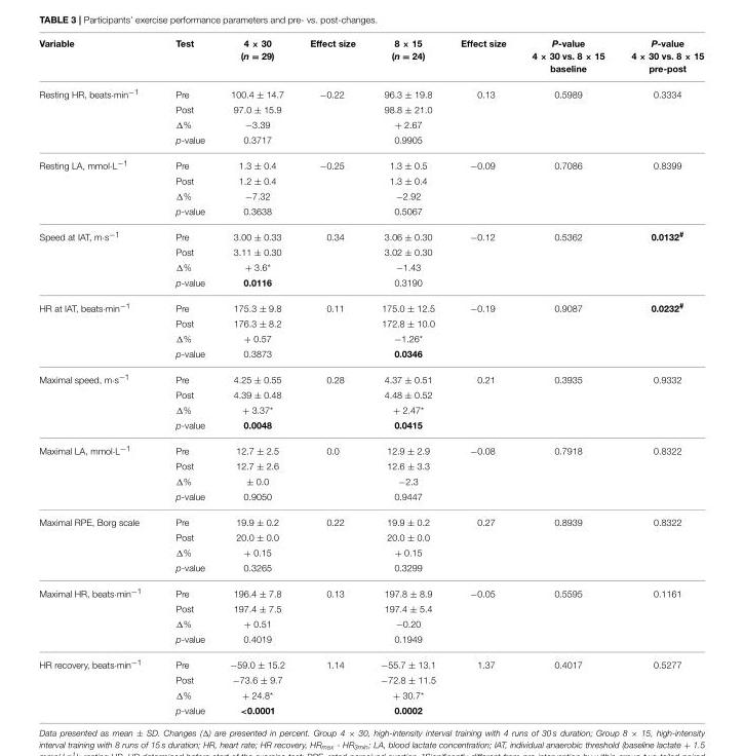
<table><thead><tr><td>Variable</td><td>Test</td><td>4 × 30 (n = 29)</td><td>Effect size</td><td>8 × 15 (n = 24)</td><td>Effect size</td><td>P-value 4 × 30 vs. 8 × 15 baseline</td><td>P-value 4 × 30 vs. 8 × 15 pre-post</td></tr></thead><tbody><tr><td rowspan="4">Resting HR, beats·min<sup>−1</sup></td><td>Pre</td><td>100.4 ± 14.7</td><td>−0.22</td><td>96.3 ± 19.8</td><td>0.13</td><td>0.5989</td><td>0.3334</td></tr><tr><td>Post</td><td>97.0 ± 15.9</td><td></td><td>98.8 ± 21.0</td><td></td><td></td><td></td></tr><tr><td>Δ%</td><td>−3.39</td><td></td><td>+ 2.67</td><td></td><td></td><td></td></tr><tr><td>p-value</td><td>0.3717</td><td></td><td>0.9905</td><td></td><td></td><td></td></tr><tr><td rowspan="4">Resting LA, mmol·L<sup>−1</sup></td><td>Pre</td><td>1.3 ± 0.4</td><td>−0.25</td><td>1.3 ± 0.5</td><td>−0.09</td><td>0.7086</td><td>0.8399</td></tr><tr><td>Post</td><td>1.2 ± 0.4</td><td></td><td>1.3 ± 0.4</td><td></td><td></td><td></td></tr><tr><td>Δ%</td><td>−7.32</td><td></td><td>−2.92</td><td></td><td></td><td></td></tr><tr><td>p-value</td><td>0.3638</td><td></td><td>0.5067</td><td></td><td></td><td></td></tr><tr><td rowspan="4">Speed at IAT, m·s<sup>−1</sup></td><td>Pre</td><td>3.00 ± 0.33</td><td>0.34</td><td>3.06 ± 0.30</td><td>−0.12</td><td>0.5362</td><td>0.0132<sup>#</sup></td></tr><tr><td>Post</td><td>3.11 ± 0.30</td><td></td><td>3.02 ± 0.30</td><td></td><td></td><td></td></tr><tr><td>Δ%</td><td>+ 3.6*</td><td></td><td>−1.43</td><td></td><td></td><td></td></tr><tr><td>p-value</td><td>0.0116</td><td></td><td>0.3190</td><td></td><td></td><td></td></tr><tr><td rowspan="4">HR at IAT, beats·min<sup>−1</sup></td><td>Pre</td><td>175.3 ± 9.8</td><td>0.11</td><td>175.0 ± 12.5</td><td>−0.19</td><td>0.9087</td><td>0.0232<sup>#</sup></td></tr><tr><td>Post</td><td>176.3 ± 8.2</td><td></td><td>172.8 ± 10.0</td><td></td><td></td><td></td></tr><tr><td>Δ%</td><td>+ 0.57</td><td></td><td>−1.26*</td><td></td><td></td><td></td></tr><tr><td>p-value</td><td>0.3873</td><td></td><td>0.0346</td><td></td><td></td><td></td></tr><tr><td rowspan="4">Maximal speed, m·s<sup>−1</sup></td><td>Pre</td><td>4.25 ± 0.55</td><td>0.28</td><td>4.37 ± 0.51</td><td>0.21</td><td>0.3935</td><td>0.9332</td></tr><tr><td>Post</td><td>4.39 ± 0.48</td><td></td><td>4.48 ± 0.52</td><td></td><td></td><td></td></tr><tr><td>Δ%</td><td>+ 3.37*</td><td></td><td>+ 2.47*</td><td></td><td></td><td></td></tr><tr><td>p-value</td><td>0.0048</td><td></td><td>0.0415</td><td></td><td></td><td></td></tr><tr><td rowspan="4">Maximal LA, mmol·L<sup>−1</sup></td><td>Pre</td><td>12.7 ± 2.5</td><td>0.0</td><td>12.9 ± 2.9</td><td>−0.08</td><td>0.7918</td><td>0.8322</td></tr><tr><td>Post</td><td>12.7 ± 2.6</td><td></td><td>12.6 ± 3.3</td><td></td><td></td><td></td></tr><tr><td>Δ%</td><td>± 0.0</td><td></td><td>−2.3</td><td></td><td></td><td></td></tr><tr><td>p-value</td><td>0.9050</td><td></td><td>0.9447</td><td></td><td></td><td></td></tr><tr><td rowspan="4">Maximal RPE, Borg scale</td><td>Pre</td><td>19.9 ± 0.2</td><td>0.22</td><td>19.9 ± 0.2</td><td>0.27</td><td>0.8939</td><td>0.8322</td></tr><tr><td>Post</td><td>20.0 ± 0.0</td><td></td><td>20.0 ± 0.0</td><td></td><td></td><td></td></tr><tr><td>Δ%</td><td>+ 0.15</td><td></td><td>+ 0.15</td><td></td><td></td><td></td></tr><tr><td>p-value</td><td>0.3265</td><td></td><td>0.3299</td><td></td><td></td><td></td></tr><tr><td rowspan="4">Maximal HR, beats·min<sup>−1</sup></td><td>Pre</td><td>196.4 ± 7.8</td><td>0.13</td><td>197.8 ± 8.9</td><td>−0.05</td><td>0.5595</td><td>0.1161</td></tr><tr><td>Post</td><td>197.4 ± 7.5</td><td></td><td>197.4 ± 5.4</td><td></td><td></td><td></td></tr><tr><td>Δ%</td><td>+ 0.51</td><td></td><td>−0.20</td><td></td><td></td><td></td></tr><tr><td>p-value</td><td>0.4019</td><td></td><td>0.1949</td><td></td><td></td><td></td></tr><tr><td rowspan="4">HR recovery, beats·min<sup>−1</sup></td><td>Pre</td><td>−59.0 ± 15.2</td><td>1.14</td><td>−55.7 ± 13.1</td><td>1.37</td><td>0.4017</td><td>0.5277</td></tr><tr><td>Post</td><td>−73.6 ± 9.7</td><td></td><td>−72.8 ± 11.5</td><td></td><td></td><td></td></tr><tr><td>Δ%</td><td>+ 24.8*</td><td></td><td>+ 30.7*</td><td></td><td></td><td></td></tr><tr><td>p-value</td><td>&lt;0.0001</td><td></td><td>0.0002</td><td></td><td></td><td></td></tr></tbody></table>